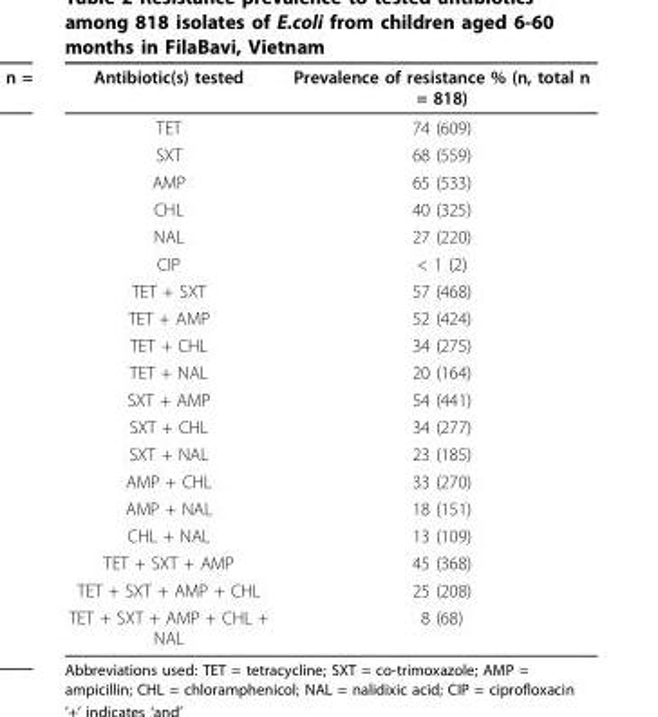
<table><thead><tr><td>Antibiotic(s) tested</td><td>Prevalence of resistance % (n, total n = 818)</td></tr></thead><tbody><tr><td>TET</td><td>74 (609)</td></tr><tr><td>SXT</td><td>68 (559)</td></tr><tr><td>AMP</td><td>65 (533)</td></tr><tr><td>CHL</td><td>40 (325)</td></tr><tr><td>NAL</td><td>27 (220)</td></tr><tr><td>CIP</td><td>&lt; 1 (2)</td></tr><tr><td>TET + SXT</td><td>57 (468)</td></tr><tr><td>TET + AMP</td><td>52 (424)</td></tr><tr><td>TET + CHL</td><td>34 (275)</td></tr><tr><td>TET + NAL</td><td>20 (164)</td></tr><tr><td>SXT + AMP</td><td>54 (441)</td></tr><tr><td>SXT + CHL</td><td>34 (277)</td></tr><tr><td>SXT + NAL</td><td>23 (185)</td></tr><tr><td>AMP + CHL</td><td>33 (270)</td></tr><tr><td>AMP + NAL</td><td>18 (151)</td></tr><tr><td>CHL + NAL</td><td>13 (109)</td></tr><tr><td>TET + SXT + AMP</td><td>45 (368)</td></tr><tr><td>TET + SXT + AMP + CHL</td><td>25 (208)</td></tr><tr><td>TET + SXT + AMP + CHL + NAL</td><td>8 (68)</td></tr></tbody></table>